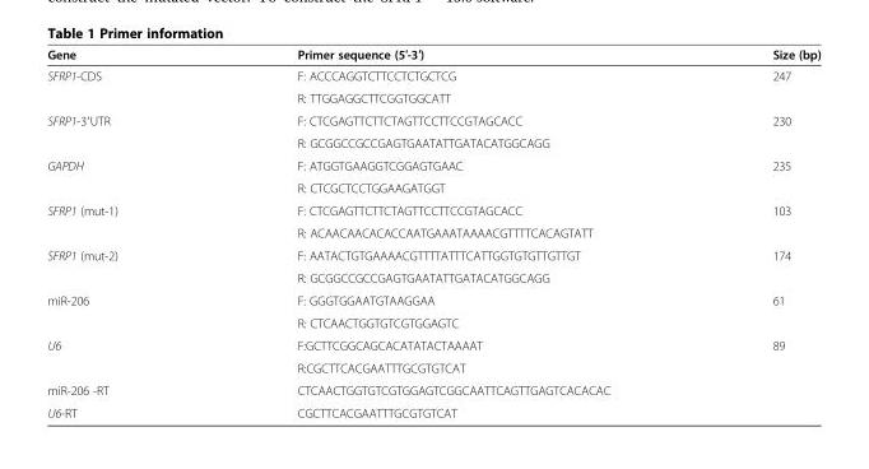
<table><thead><tr><td>Gene</td><td>Primer sequence (5′-3′)</td><td>Size (bp)</td></tr></thead><tbody><tr><td rowspan="2">SFRP1-CDS</td><td>F: ACCCAGGTCTTCCTCTGCTCG</td><td>247</td></tr><tr><td>R: TTGGAGGCTTCGGTGGCATT</td><td></td></tr><tr><td rowspan="2">SFRP1-3′UTR</td><td>F: CTCGAGTTCTTCTAGTTCCTTCCGTAGCACC</td><td>230</td></tr><tr><td>R: GCGGCCGCCGAGTGAATATTGATACATGGCAGG</td><td></td></tr><tr><td rowspan="2">GAPDH</td><td>F: ATGGTGAAGGTCGGAGTGAAC</td><td>235</td></tr><tr><td>R: CTCGCTCCTGGAAGATGGT</td><td></td></tr><tr><td rowspan="2">SFRP1 (mut-1)</td><td>F: CTCGAGTTCTTCTAGTTCCTTCCGTAGCACC</td><td>103</td></tr><tr><td>R: ACAACAACACACCAATGAAATAAAACGTTTTCACAGTATT</td><td></td></tr><tr><td rowspan="2">SFRP1 (mut-2)</td><td>F: AATACTGTGAAAACGTTTTATTTCATTGGTGTGTTGTTGT</td><td>174</td></tr><tr><td>R: GCGGCCGCCGAGTGAATATTGATACATGGCAGG</td><td></td></tr><tr><td rowspan="2">miR-206</td><td>F: GGGTGGAATGTAAGGAA</td><td>61</td></tr><tr><td>R: CTCAACTGGTGTCGTGGAGTC</td><td></td></tr><tr><td rowspan="2">U6</td><td>F:GCTTCGGCAGCACATATACTAAAAT</td><td>89</td></tr><tr><td>R:CGCTTCACGAATTTGCGTGTCAT</td><td></td></tr><tr><td>miR-206 -RT</td><td colspan="2">CTCAACTGGTGTCGTGGAGTCGGCAATTCAGTTGAGTCACACAC</td></tr><tr><td>U6-RT</td><td colspan="2">CGCTTCACGAATTTGCGTGTCAT</td></tr></tbody></table>